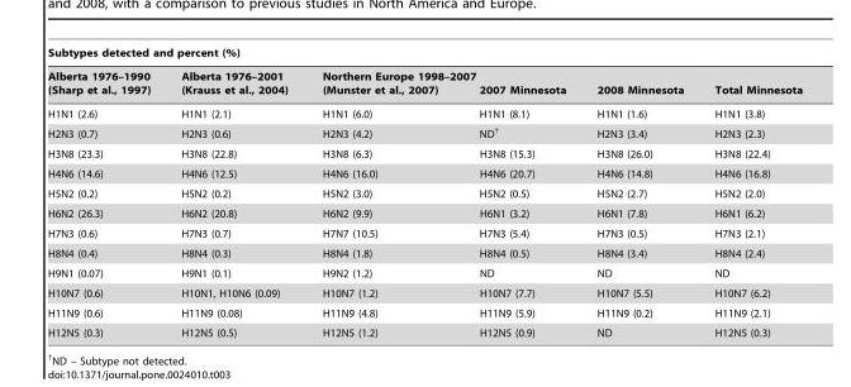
<table><thead><tr><td colspan="6">Subtypes detected and percent (%)</td></tr><tr><td>Alberta 1976–1990 (Sharp et al., 1997)</td><td>Alberta 1976–2001 (Krauss et al., 2004)</td><td>Northern Europe 1998–2007 (Munster et al., 2007)</td><td>2007 Minnesota</td><td>2008 Minnesota</td><td>Total Minnesota</td></tr></thead><tbody><tr><td>H1N1 (2.6)</td><td>H1N1 (2.1)</td><td>H1N1 (6.0)</td><td>H1N1 (8.1)</td><td>H1N1 (1.6)</td><td>H1N1 (3.8)</td></tr><tr><td>H2N3 (0.7)</td><td>H2N3 (0.6)</td><td>H2N3 (4.2)</td><td>ND†</td><td>H2N3 (3.4)</td><td>H2N3 (2.3)</td></tr><tr><td>H3N8 (23.3)</td><td>H3N8 (22.8)</td><td>H3N8 (6.3)</td><td>H3N8 (15.3)</td><td>H3N8 (26.0)</td><td>H3N8 (22.4)</td></tr><tr><td>H4N6 (14.6)</td><td>H4N6 (12.5)</td><td>H4N6 (16.0)</td><td>H4N6 (20.7)</td><td>H4N6 (14.8)</td><td>H4N6 (16.8)</td></tr><tr><td>H5N2 (0.2)</td><td>H5N2 (0.2)</td><td>H5N2 (3.0)</td><td>H5N2 (0.5)</td><td>H5N2 (2.7)</td><td>H5N2 (2.0)</td></tr><tr><td>H6N2 (26.3)</td><td>H6N2 (20.8)</td><td>H6N2 (9.9)</td><td>H6N1 (3.2)</td><td>H6N1 (7.8)</td><td>H6N1 (6.2)</td></tr><tr><td>H7N3 (0.6)</td><td>H7N3 (0.7)</td><td>H7N7 (10.5)</td><td>H7N3 (5.4)</td><td>H7N3 (0.5)</td><td>H7N3 (2.1)</td></tr><tr><td>H8N4 (0.4)</td><td>H8N4 (0.3)</td><td>H8N4 (1.8)</td><td>H8N4 (0.5)</td><td>H8N4 (3.4)</td><td>H8N4 (2.4)</td></tr><tr><td>H9N1 (0.07)</td><td>H9N1 (0.1)</td><td>H9N2 (1.2)</td><td>ND</td><td>ND</td><td>ND</td></tr><tr><td>H10N7 (0.6)</td><td>H10N1, H10N6 (0.09)</td><td>H10N7 (1.2)</td><td>H10N7 (7.7)</td><td>H10N7 (5.5)</td><td>H10N7 (6.2)</td></tr><tr><td>H11N9 (0.6)</td><td>H11N9 (0.08)</td><td>H11N9 (4.8)</td><td>H11N9 (5.9)</td><td>H11N9 (0.2)</td><td>H11N9 (2.1)</td></tr><tr><td>H12N5 (0.3)</td><td>H12N5 (0.5)</td><td>H12N5 (1.2)</td><td>H12N5 (0.9)</td><td>ND</td><td>H12N5 (0.3)</td></tr></tbody></table>